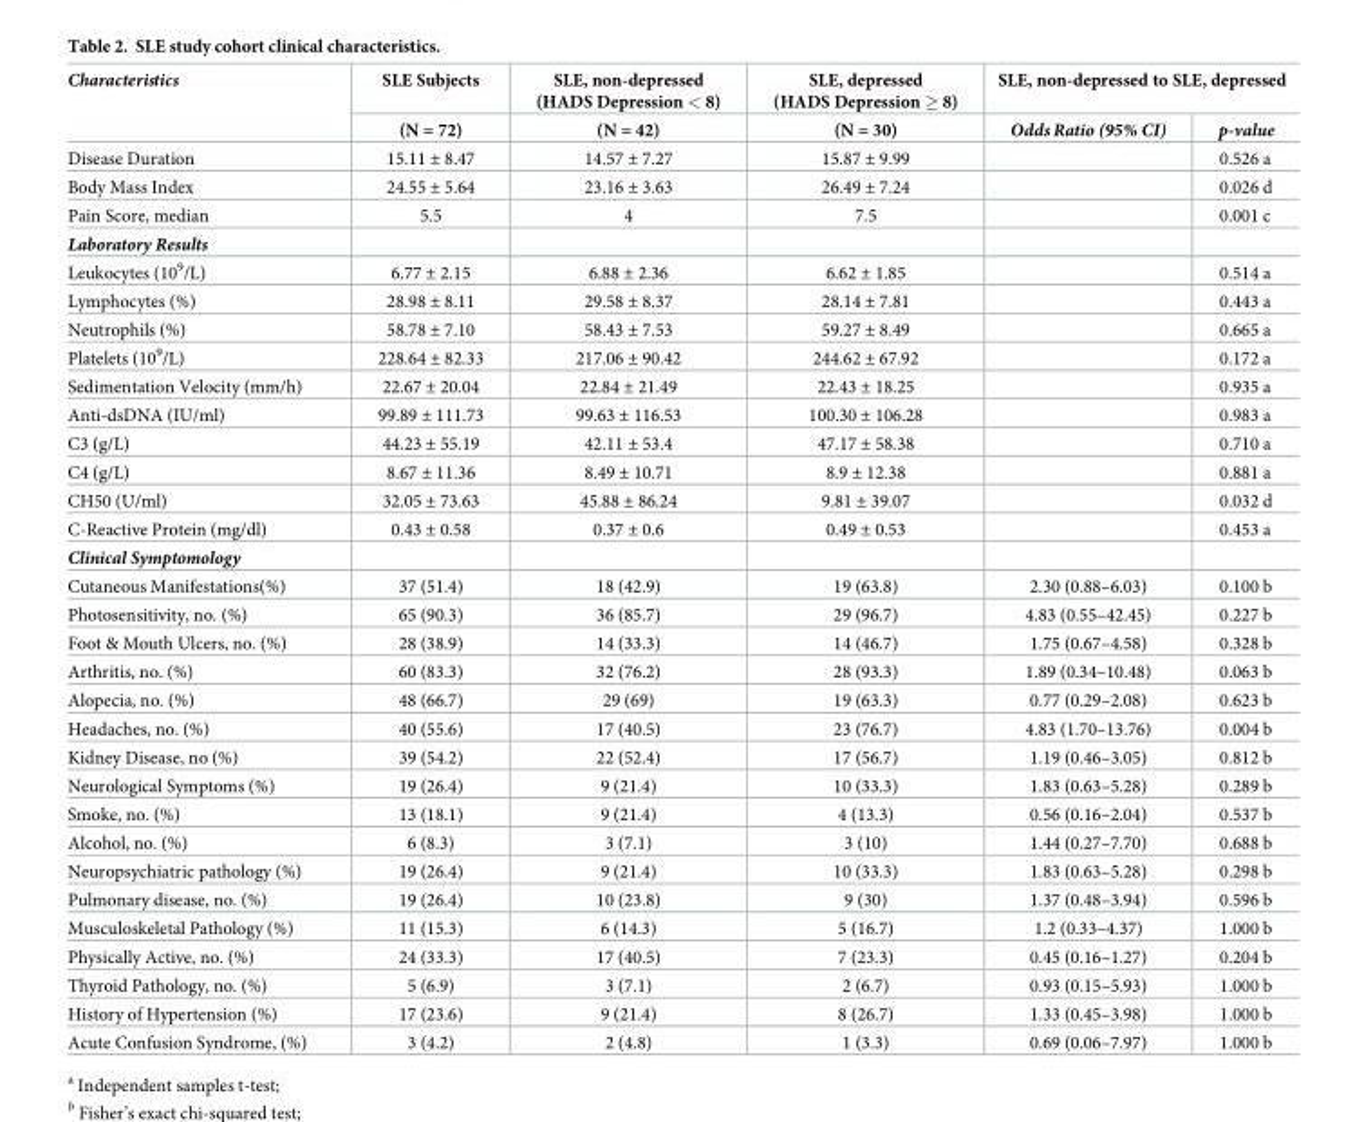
<table><thead><tr><td rowspan="2">Characteristics</td><td rowspan="2">SLE Subjects (N = 72)</td><td rowspan="2">SLE, non-depressed (HADS Depression &lt; 8) (N = 42)</td><td rowspan="2">SLE, depressed (HADS Depression ≥ 8) (N = 30)</td><td colspan="2">SLE, non-depressed to SLE, depressed</td></tr><tr><td>Odds Ratio (95% CI)</td><td>p-value</td></tr></thead><tbody><tr><td>Disease Duration</td><td>15.11 ± 8.47</td><td>14.57 ± 7.27</td><td>15.87 ± 9.99</td><td></td><td>0.526 a</td></tr><tr><td>Body Mass Index</td><td>24.55 ± 5.64</td><td>23.16 ± 3.63</td><td>26.49 ± 7.24</td><td></td><td>0.026 d</td></tr><tr><td>Pain Score, median</td><td>5.5</td><td>4</td><td>7.5</td><td></td><td>0.001 c</td></tr><tr><td colspan="6">Laboratory Results</td></tr><tr><td>Leukocytes (10<sup>9</sup>/L)</td><td>6.77 ± 2.15</td><td>6.88 ± 2.36</td><td>6.62 ± 1.85</td><td></td><td>0.514 a</td></tr><tr><td>Lymphocytes (%)</td><td>28.98 ± 8.11</td><td>29.58 ± 8.37</td><td>28.14 ± 7.81</td><td></td><td>0.443 a</td></tr><tr><td>Neutrophils (%)</td><td>58.78 ± 7.10</td><td>58.43 ± 7.53</td><td>59.27 ± 8.49</td><td></td><td>0.665 a</td></tr><tr><td>Platelets (10<sup>9</sup>/L)</td><td>228.64 ± 82.33</td><td>217.06 ± 90.42</td><td>244.62 ± 67.92</td><td></td><td>0.172 a</td></tr><tr><td>Sedimentation Velocity (mm/h)</td><td>22.67 ± 20.04</td><td>22.84 ± 21.49</td><td>22.43 ± 18.25</td><td></td><td>0.935 a</td></tr><tr><td>Anti-dsDNA (IU/ml)</td><td>99.89 ± 111.73</td><td>99.63 ± 116.53</td><td>100.30 ± 106.28</td><td></td><td>0.983 a</td></tr><tr><td>C3 (g/L)</td><td>44.23 ± 55.19</td><td>42.11 ± 53.4</td><td>47.17 ± 58.38</td><td></td><td>0.710 a</td></tr><tr><td>C4 (g/L)</td><td>8.67 ± 11.36</td><td>8.49 ± 10.71</td><td>8.9 ± 12.38</td><td></td><td>0.881 a</td></tr><tr><td>CH50 (U/ml)</td><td>32.05 ± 73.63</td><td>45.88 ± 86.24</td><td>9.81 ± 39.07</td><td></td><td>0.032 d</td></tr><tr><td>C-Reactive Protein (mg/dl)</td><td>0.43 ± 0.58</td><td>0.37 ± 0.6</td><td>0.49 ± 0.53</td><td></td><td>0.453 a</td></tr><tr><td colspan="6">Clinical Symptomology</td></tr><tr><td>Cutaneous Manifestations(%)</td><td>37 (51.4)</td><td>18 (42.9)</td><td>19 (63.8)</td><td>2.30 (0.88–6.03)</td><td>0.100 b</td></tr><tr><td>Photosensitivity, no. (%)</td><td>65 (90.3)</td><td>36 (85.7)</td><td>29 (96.7)</td><td>4.83 (0.55–42.45)</td><td>0.227 b</td></tr><tr><td>Foot &amp; Mouth Ulcers, no. (%)</td><td>28 (38.9)</td><td>14 (33.3)</td><td>14 (46.7)</td><td>1.75 (0.67–4.58)</td><td>0.328 b</td></tr><tr><td>Arthritis, no. (%)</td><td>60 (83.3)</td><td>32 (76.2)</td><td>28 (93.3)</td><td>1.89 (0.34–10.48)</td><td>0.063 b</td></tr><tr><td>Alopecia, no. (%)</td><td>48 (66.7)</td><td>29 (69)</td><td>19 (63.3)</td><td>0.77 (0.29–2.08)</td><td>0.623 b</td></tr><tr><td>Headaches, no. (%)</td><td>40 (55.6)</td><td>17 (40.5)</td><td>23 (76.7)</td><td>4.83 (1.70–13.76)</td><td>0.004 b</td></tr><tr><td>Kidney Disease, no (%)</td><td>39 (54.2)</td><td>22 (52.4)</td><td>17 (56.7)</td><td>1.19 (0.46–3.05)</td><td>0.812 b</td></tr><tr><td>Neurological Symptoms (%)</td><td>19 (26.4)</td><td>9 (21.4)</td><td>10 (33.3)</td><td>1.83 (0.63–5.28)</td><td>0.289 b</td></tr><tr><td>Smoke, no. (%)</td><td>13 (18.1)</td><td>9 (21.4)</td><td>4 (13.3)</td><td>0.56 (0.16–2.04)</td><td>0.537 b</td></tr><tr><td>Alcohol, no. (%)</td><td>6 (8.3)</td><td>3 (7.1)</td><td>3 (10)</td><td>1.44 (0.27–7.70)</td><td>0.688 b</td></tr><tr><td>Neuropsychiatric pathology (%)</td><td>19 (26.4)</td><td>9 (21.4)</td><td>10 (33.3)</td><td>1.83 (0.63–5.28)</td><td>0.298 b</td></tr><tr><td>Pulmonary disease, no. (%)</td><td>19 (26.4)</td><td>10 (23.8)</td><td>9 (30)</td><td>1.37 (0.48–3.94)</td><td>0.596 b</td></tr><tr><td>Musculoskeletal Pathology (%)</td><td>11 (15.3)</td><td>6 (14.3)</td><td>5 (16.7)</td><td>1.2 (0.33–4.37)</td><td>1.000 b</td></tr><tr><td>Physically Active, no. (%)</td><td>24 (33.3)</td><td>17 (40.5)</td><td>7 (23.3)</td><td>0.45 (0.16–1.27)</td><td>0.204 b</td></tr><tr><td>Thyroid Pathology, no. (%)</td><td>5 (6.9)</td><td>3 (7.1)</td><td>2 (6.7)</td><td>0.93 (0.15–5.93)</td><td>1.000 b</td></tr><tr><td>History of Hypertension (%)</td><td>17 (23.6)</td><td>9 (21.4)</td><td>8 (26.7)</td><td>1.33 (0.45–3.98)</td><td>1.000 b</td></tr><tr><td>Acute Confusion Syndrome, (%)</td><td>3 (4.2)</td><td>2 (4.8)</td><td>1 (3.3)</td><td>0.69 (0.06–7.97)</td><td>1.000 b</td></tr></tbody></table>